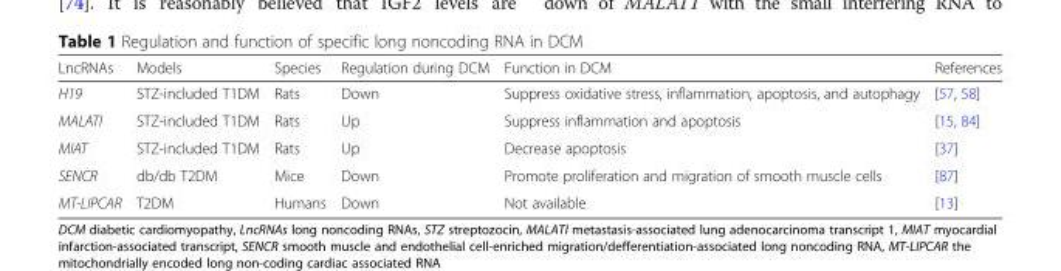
<table><thead><tr><td>LncRNAs</td><td>Models</td><td>Species</td><td>Regulation during DCM</td><td>Function in DCM</td><td>References</td></tr></thead><tbody><tr><td>H19</td><td>STZ-included T1DM</td><td>Rats</td><td>Down</td><td>Suppress oxidative stress, inflammation, apoptosis, and autophagy</td><td>[57, 58]</td></tr><tr><td>MALATI</td><td>STZ-included T1DM</td><td>Rats</td><td>Up</td><td>Suppress inflammation and apoptosis</td><td>[15, 84]</td></tr><tr><td>MIAT</td><td>STZ-included T1DM</td><td>Rats</td><td>Up</td><td>Decrease apoptosis</td><td>[37]</td></tr><tr><td>SENCR</td><td>db/db T2DM</td><td>Mice</td><td>Down</td><td>Promote proliferation and migration of smooth muscle cells</td><td>[87]</td></tr><tr><td>MT-LIPCAR</td><td>T2DM</td><td>Humans</td><td>Down</td><td>Not available</td><td>[13]</td></tr></tbody></table>